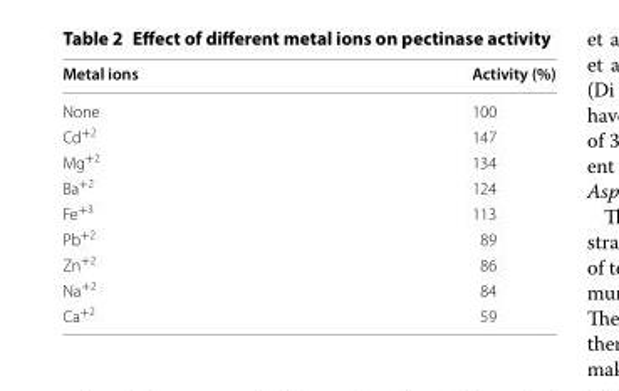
<table><thead><tr><td>Metal ions</td><td>Activity (%)</td></tr></thead><tbody><tr><td>None</td><td>100</td></tr><tr><td>Cd<sup>+2</sup></td><td>147</td></tr><tr><td>Mg<sup>+2</sup></td><td>134</td></tr><tr><td>Ba<sup>+2</sup></td><td>124</td></tr><tr><td>Fe<sup>+3</sup></td><td>113</td></tr><tr><td>Pb<sup>+2</sup></td><td>89</td></tr><tr><td>Zn<sup>+2</sup></td><td>86</td></tr><tr><td>Na<sup>+2</sup></td><td>84</td></tr><tr><td>Ca<sup>+2</sup></td><td>59</td></tr></tbody></table>